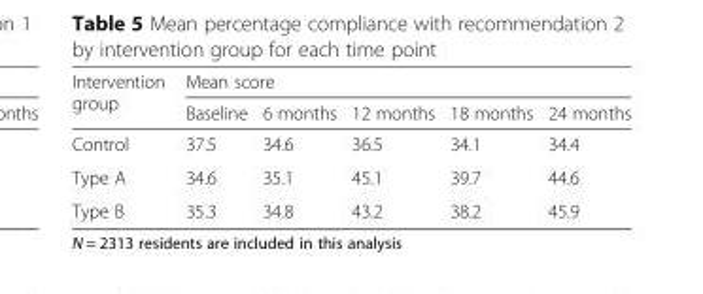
<table><thead><tr><td rowspan="2">Intervention group</td><td colspan="5">Mean score</td></tr><tr><td>Baseline</td><td>6 months</td><td>12 months</td><td>18 months</td><td>24 months</td></tr></thead><tbody><tr><td>Control</td><td>37.5</td><td>34.6</td><td>36.5</td><td>34.1</td><td>34.4</td></tr><tr><td>Type A</td><td>34.6</td><td>35.1</td><td>45.1</td><td>39.7</td><td>44.6</td></tr><tr><td>Type B</td><td>35.3</td><td>34.8</td><td>43.2</td><td>38.2</td><td>45.9</td></tr></tbody></table>